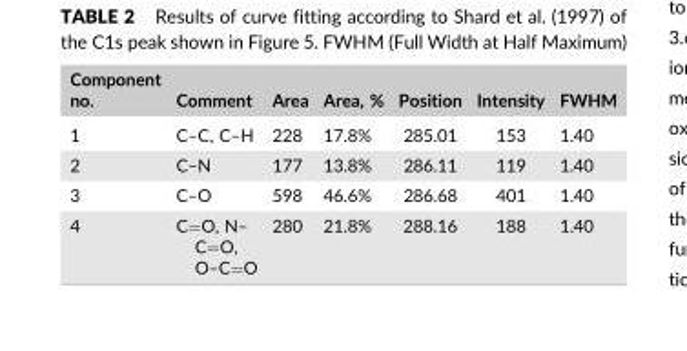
<table><thead><tr><td>Component no.</td><td>Comment</td><td>Area</td><td>Area, %</td><td>Position</td><td>Intensity</td><td>FWHM</td></tr></thead><tbody><tr><td>1</td><td>C–C, C–H</td><td>228</td><td>17.8%</td><td>285.01</td><td>153</td><td>1.40</td></tr><tr><td>2</td><td>C–N</td><td>177</td><td>13.8%</td><td>286.11</td><td>119</td><td>1.40</td></tr><tr><td>3</td><td>C–O</td><td>598</td><td>46.6%</td><td>286.68</td><td>401</td><td>1.40</td></tr><tr><td>4</td><td>C=O, N– C=O, O–C=O</td><td>280</td><td>21.8%</td><td>288.16</td><td>188</td><td>1.40</td></tr></tbody></table>